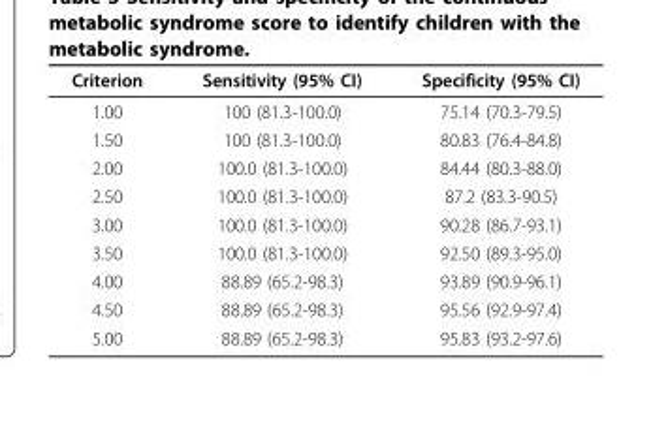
<table><thead><tr><td>Criterion</td><td>Sensitivity (95% CI)</td><td>Specificity (95% CI)</td></tr></thead><tbody><tr><td>1.00</td><td>100 (81.3-100.0)</td><td>75.14 (70.3-79.5)</td></tr><tr><td>1.50</td><td>100 (81.3-100.0)</td><td>80.83 (76.4-84.8)</td></tr><tr><td>2.00</td><td>100.0 (81.3-100.0)</td><td>84.44 (80.3-88.0)</td></tr><tr><td>2.50</td><td>100.0 (81.3-100.0)</td><td>87.2 (83.3-90.5)</td></tr><tr><td>3.00</td><td>100.0 (81.3-100.0)</td><td>90.28 (86.7-93.1)</td></tr><tr><td>3.50</td><td>100.0 (81.3-100.0)</td><td>92.50 (89.3-95.0)</td></tr><tr><td>4.00</td><td>88.89 (65.2-98.3)</td><td>93.89 (90.9-96.1)</td></tr><tr><td>4.50</td><td>88.89 (65.2-98.3)</td><td>95.56 (92.9-97.4)</td></tr><tr><td>5.00</td><td>88.89 (65.2-98.3)</td><td>95.83 (93.2-97.6)</td></tr></tbody></table>